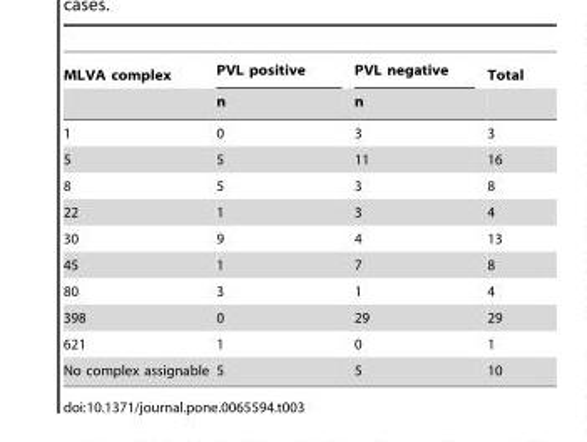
<table><thead><tr><td rowspan="2">MLVA complex</td><td rowspan="2">PVL positive n</td><td rowspan="2">PVL negative n</td><td rowspan="2">Total</td></tr><tr></tr></thead><tbody><tr><td>1</td><td>0</td><td>3</td><td>3</td></tr><tr><td>5</td><td>5</td><td>11</td><td>16</td></tr><tr><td>8</td><td>5</td><td>3</td><td>8</td></tr><tr><td>22</td><td>1</td><td>3</td><td>4</td></tr><tr><td>30</td><td>9</td><td>4</td><td>13</td></tr><tr><td>45</td><td>1</td><td>7</td><td>8</td></tr><tr><td>80</td><td>3</td><td>1</td><td>4</td></tr><tr><td>398</td><td>0</td><td>29</td><td>29</td></tr><tr><td>621</td><td>1</td><td>0</td><td>1</td></tr><tr><td>No complex assignable</td><td>5</td><td>5</td><td>10</td></tr></tbody></table>